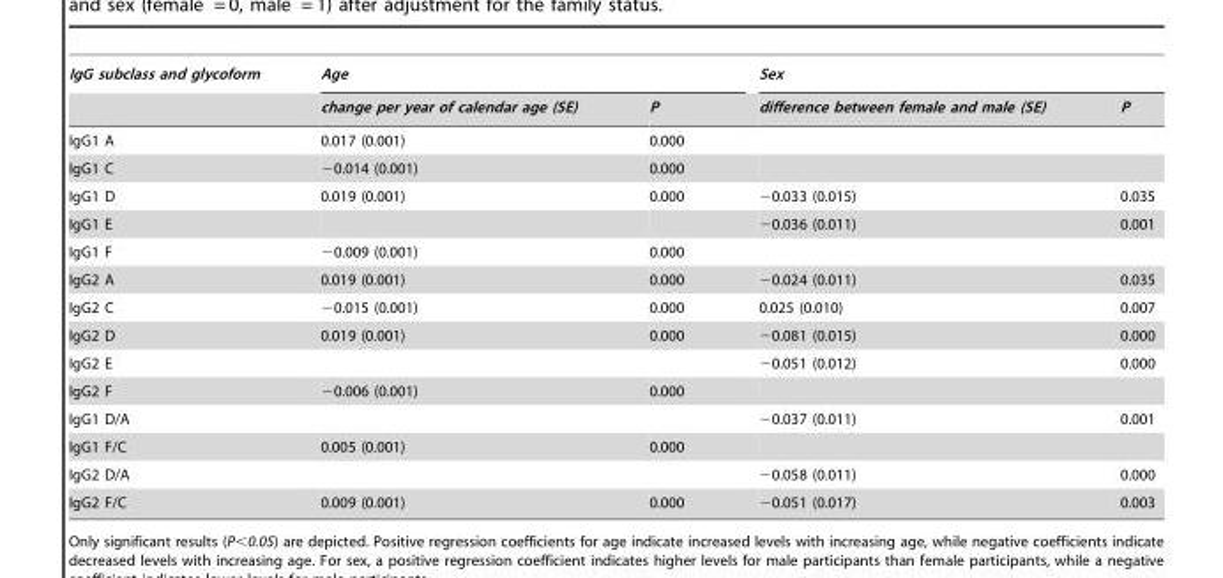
<table><thead><tr><td rowspan="2">IgG subclass and glycoform</td><td colspan="2">Age</td><td colspan="2">Sex</td></tr><tr><td>change per year of calendar age (SE)</td><td>P</td><td>difference between female and male (SE)</td><td>P</td></tr></thead><tbody><tr><td>IgG1 A</td><td>0.017 (0.001)</td><td>0.000</td><td></td><td></td></tr><tr><td>IgG1 C</td><td>−0.014 (0.001)</td><td>0.000</td><td></td><td></td></tr><tr><td>IgG1 D</td><td>0.019 (0.001)</td><td>0.000</td><td>−0.033 (0.015)</td><td>0.035</td></tr><tr><td>IgG1 E</td><td></td><td></td><td>−0.036 (0.011)</td><td>0.001</td></tr><tr><td>IgG1 F</td><td>−0.009 (0.001)</td><td>0.000</td><td></td><td></td></tr><tr><td>IgG2 A</td><td>0.019 (0.001)</td><td>0.000</td><td>−0.024 (0.011)</td><td>0.035</td></tr><tr><td>IgG2 C</td><td>−0.015 (0.001)</td><td>0.000</td><td>0.025 (0.010)</td><td>0.007</td></tr><tr><td>IgG2 D</td><td>0.019 (0.001)</td><td>0.000</td><td>−0.081 (0.015)</td><td>0.000</td></tr><tr><td>IgG2 E</td><td></td><td></td><td>−0.051 (0.012)</td><td>0.000</td></tr><tr><td>IgG2 F</td><td>−0.006 (0.001)</td><td>0.000</td><td></td><td></td></tr><tr><td>IgG1 D/A</td><td></td><td></td><td>−0.037 (0.011)</td><td>0.001</td></tr><tr><td>IgG1 F/C</td><td>0.005 (0.001)</td><td>0.000</td><td></td><td></td></tr><tr><td>IgG2 D/A</td><td></td><td></td><td>−0.058 (0.011)</td><td>0.000</td></tr><tr><td>IgG2 F/C</td><td>0.009 (0.001)</td><td>0.000</td><td>−0.051 (0.017)</td><td>0.003</td></tr></tbody></table>